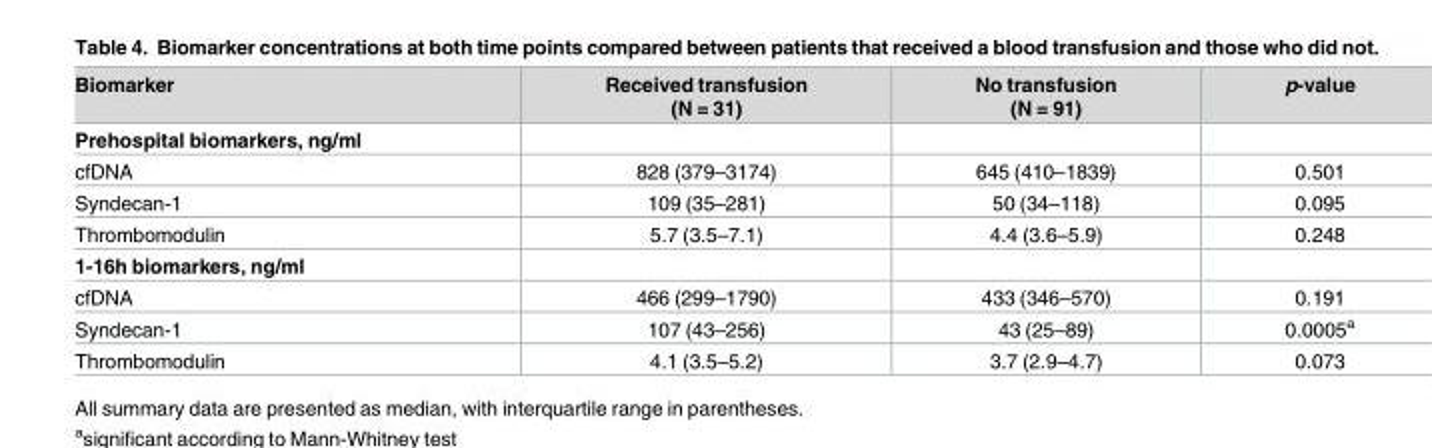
<table><thead><tr><td>Biomarker</td><td>Received transfusion (N = 31)</td><td>No transfusion (N = 91)</td><td>p-value</td></tr></thead><tbody><tr><td colspan="4">Prehospital biomarkers, ng/ml</td></tr><tr><td>cfDNA</td><td>828 (379–3174)</td><td>645 (410–1839)</td><td>0.501</td></tr><tr><td>Syndecan-1</td><td>109 (35–281)</td><td>50 (34–118)</td><td>0.095</td></tr><tr><td>Thrombomodulin</td><td>5.7 (3.5–7.1)</td><td>4.4 (3.6–5.9)</td><td>0.248</td></tr><tr><td colspan="4">1-16h biomarkers, ng/ml</td></tr><tr><td>cfDNA</td><td>466 (299–1790)</td><td>433 (346–570)</td><td>0.191</td></tr><tr><td>Syndecan-1</td><td>107 (43–256)</td><td>43 (25–89)</td><td>0.0005<sup>a</sup></td></tr><tr><td>Thrombomodulin</td><td>4.1 (3.5–5.2)</td><td>3.7 (2.9–4.7)</td><td>0.073</td></tr></tbody></table>